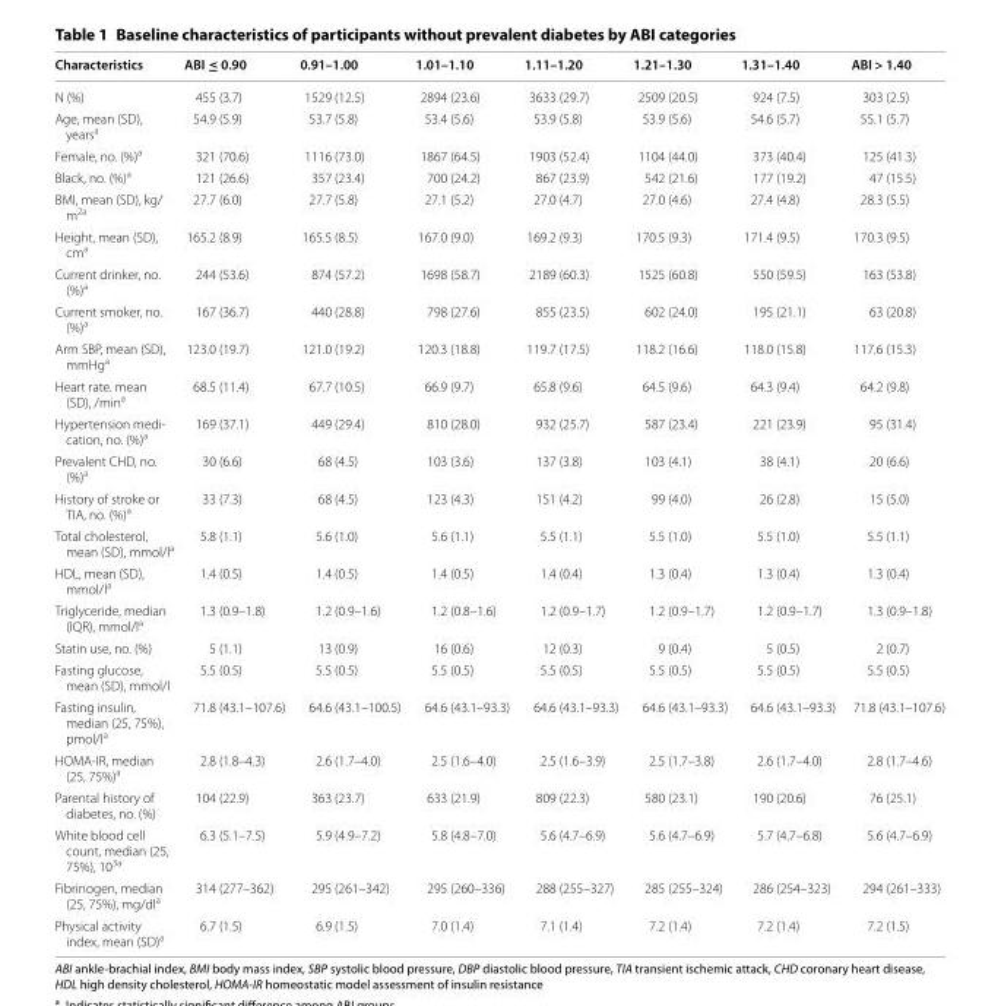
<table><thead><tr><td>Characteristics</td><td>ABI ≤ 0.90</td><td>0.91–1.00</td><td>1.01–1.10</td><td>1.11–1.20</td><td>1.21–1.30</td><td>1.31–1.40</td><td>ABI &gt; 1.40</td></tr></thead><tbody><tr><td>N (%)</td><td>455 (3.7)</td><td>1529 (12.5)</td><td>2894 (23.6)</td><td>3633 (29.7)</td><td>2509 (20.5)</td><td>924 (7.5)</td><td>303 (2.5)</td></tr><tr><td>Age, mean (SD), years<sup>a</sup></td><td>54.9 (5.9)</td><td>53.7 (5.8)</td><td>53.4 (5.6)</td><td>53.9 (5.8)</td><td>53.9 (5.6)</td><td>54.6 (5.7)</td><td>55.1 (5.7)</td></tr><tr><td>Female, no. (%)<sup>a</sup></td><td>321 (70.6)</td><td>1116 (73.0)</td><td>1867 (64.5)</td><td>1903 (52.4)</td><td>1104 (44.0)</td><td>373 (40.4)</td><td>125 (41.3)</td></tr><tr><td>Black, no. (%)<sup>a</sup></td><td>121 (26.6)</td><td>357 (23.4)</td><td>700 (24.2)</td><td>867 (23.9)</td><td>542 (21.6)</td><td>177 (19.2)</td><td>47 (15.5)</td></tr><tr><td>BMI, mean (SD), kg/ m<sup>2a</sup></td><td>27.7 (6.0)</td><td>27.7 (5.8)</td><td>27.1 (5.2)</td><td>27.0 (4.7)</td><td>27.0 (4.6)</td><td>27.4 (4.8)</td><td>28.3 (5.5)</td></tr><tr><td>Height, mean (SD), cm<sup>a</sup></td><td>165.2 (8.9)</td><td>165.5 (8.5)</td><td>167.0 (9.0)</td><td>169.2 (9.3)</td><td>170.5 (9.3)</td><td>171.4 (9.5)</td><td>170.3 (9.5)</td></tr><tr><td>Current drinker, no. (%)<sup>a</sup></td><td>244 (53.6)</td><td>874 (57.2)</td><td>1698 (58.7)</td><td>2189 (60.3)</td><td>1525 (60.8)</td><td>550 (59.5)</td><td>163 (53.8)</td></tr><tr><td>Current smoker, no. (%)<sup>a</sup></td><td>167 (36.7)</td><td>440 (28.8)</td><td>798 (27.6)</td><td>855 (23.5)</td><td>602 (24.0)</td><td>195 (21.1)</td><td>63 (20.8)</td></tr><tr><td>Arm SBP, mean (SD), mmHg<sup>a</sup></td><td>123.0 (19.7)</td><td>121.0 (19.2)</td><td>120.3 (18.8)</td><td>119.7 (17.5)</td><td>118.2 (16.6)</td><td>118.0 (15.8)</td><td>117.6 (15.3)</td></tr><tr><td>Heart rate. mean (SD), /min<sup>a</sup></td><td>68.5 (11.4)</td><td>67.7 (10.5)</td><td>66.9 (9.7)</td><td>65.8 (9.6)</td><td>64.5 (9.6)</td><td>64.3 (9.4)</td><td>64.2 (9.8)</td></tr><tr><td>Hypertension medi- cation, no. (%)a</td><td>169 (37.1)</td><td>449 (29.4)</td><td>810 (28.0)</td><td>932 (25.7)</td><td>587 (23.4)</td><td>221 (23.9)</td><td>95 (31.4)</td></tr><tr><td>Prevalent CHD, no. (%)<sup>a</sup></td><td>30 (6.6)</td><td>68 (4.5)</td><td>103 (3.6)</td><td>137 (3.8)</td><td>103 (4.1)</td><td>38 (4.1)</td><td>20 (6.6)</td></tr><tr><td>History of stroke or TIA, no. (%)<sup>a</sup></td><td>33 (7.3)</td><td>68 (4.5)</td><td>123 (4.3)</td><td>151 (4.2)</td><td>99 (4.0)</td><td>26 (2.8)</td><td>15 (5.0)</td></tr><tr><td>Total cholesterol, mean (SD), mmol/l<sup>a</sup></td><td>5.8 (1.1)</td><td>5.6 (1.0)</td><td>5.6 (1.1)</td><td>5.5 (1.1)</td><td>5.5 (1.0)</td><td>5.5 (1.0)</td><td>5.5 (1.1)</td></tr><tr><td>HDL, mean (SD), mmol/l<sup>a</sup></td><td>1.4 (0.5)</td><td>1.4 (0.5)</td><td>1.4 (0.5)</td><td>1.4 (0.4)</td><td>1.3 (0.4)</td><td>1.3 (0.4)</td><td>1.3 (0.4)</td></tr><tr><td>Triglyceride, median (IQR), mmol/l<sup>a</sup></td><td>1.3 (0.9–1.8)</td><td>1.2 (0.9–1.6)</td><td>1.2 (0.8–1.6)</td><td>1.2 (0.9–1.7)</td><td>1.2 (0.9–1.7)</td><td>1.2 (0.9–1.7)</td><td>1.3 (0.9–1.8)</td></tr><tr><td>Statin use, no. (%)</td><td>5 (1.1)</td><td>13 (0.9)</td><td>16 (0.6)</td><td>12 (0.3)</td><td>9 (0.4)</td><td>5 (0.5)</td><td>2 (0.7)</td></tr><tr><td>Fasting glucose, mean (SD), mmol/l</td><td>5.5 (0.5)</td><td>5.5 (0.5)</td><td>5.5 (0.5)</td><td>5.5 (0.5)</td><td>5.5 (0.5)</td><td>5.5 (0.5)</td><td>5.5 (0.5)</td></tr><tr><td>Fasting insulin, median (25, 75%), pmol/l<sup>a</sup></td><td>71.8 (43.1–107.6)</td><td>64.6 (43.1–100.5)</td><td>64.6 (43.1–93.3)</td><td>64.6 (43.1–93.3)</td><td>64.6 (43.1–93.3)</td><td>64.6 (43.1–93.3)</td><td>71.8 (43.1–107.6)</td></tr><tr><td>HOMA-IR, median (25, 75%)<sup>a</sup></td><td>2.8 (1.8–4.3)</td><td>2.6 (1.7–4.0)</td><td>2.5 (1.6–4.0)</td><td>2.5 (1.6–3.9)</td><td>2.5 (1.7–3.8)</td><td>2.6 (1.7–4.0)</td><td>2.8 (1.7–4.6)</td></tr><tr><td>Parental history of diabetes, no. (%)</td><td>104 (22.9)</td><td>363 (23.7)</td><td>633 (21.9)</td><td>809 (22.3)</td><td>580 (23.1)</td><td>190 (20.6)</td><td>76 (25.1)</td></tr><tr><td>White blood cell count, median (25, 75%), 10<sup>3a</sup></td><td>6.3 (5.1–7.5)</td><td>5.9 (4.9–7.2)</td><td>5.8 (4.8–7.0)</td><td>5.6 (4.7–6.9)</td><td>5.6 (4.7–6.9)</td><td>5.7 (4.7–6.8)</td><td>5.6 (4.7–6.9)</td></tr><tr><td>Fibrinogen, median (25, 75%), mg/dl<sup>a</sup></td><td>314 (277–362)</td><td>295 (261–342)</td><td>295 (260–336)</td><td>288 (255–327)</td><td>285 (255–324)</td><td>286 (254–323)</td><td>294 (261–333)</td></tr><tr><td>Physical activity index, mean (SD)<sup>a</sup></td><td>6.7 (1.5)</td><td>6.9 (1.5)</td><td>7.0 (1.4)</td><td>7.1 (1.4)</td><td>7.2 (1.4)</td><td>7.2 (1.4)</td><td>7.2 (1.5)</td></tr></tbody></table>